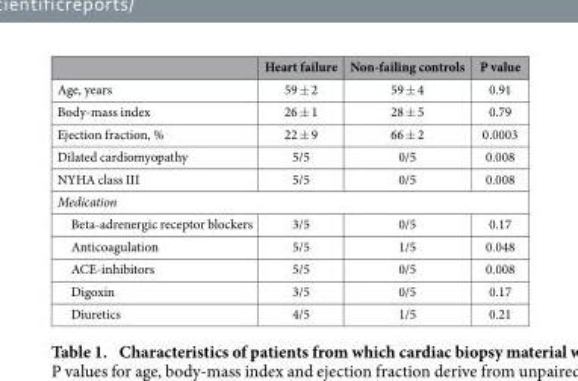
<table><thead><tr><td></td><td>Heart failure</td><td>Non-failing controls</td><td>P value</td></tr></thead><tbody><tr><td>Age, years</td><td>59 ± 2</td><td>59 ± 4</td><td>0.91</td></tr><tr><td>Body-mass index</td><td>26 ± 1</td><td>28 ± 5</td><td>0.79</td></tr><tr><td>Ejection fraction, %</td><td>22 ± 9</td><td>66 ± 2</td><td>0.0003</td></tr><tr><td>Dilated cardiomyopathy</td><td>5/5</td><td>0/5</td><td>0.008</td></tr><tr><td>NYHA class III</td><td>5/5</td><td>0/5</td><td>0.008</td></tr><tr><td colspan="4">Medication</td></tr><tr><td>Beta-adrenergic receptor blockers</td><td>3/5</td><td>0/5</td><td>0.17</td></tr><tr><td>Anticoagulation</td><td>5/5</td><td>1/5</td><td>0.048</td></tr><tr><td>ACE-inhibitors</td><td>5/5</td><td>0/5</td><td>0.008</td></tr><tr><td>Digoxin</td><td>3/5</td><td>0/5</td><td>0.17</td></tr><tr><td>Diuretics</td><td>4/5</td><td>1/5</td><td>0.21</td></tr></tbody></table>